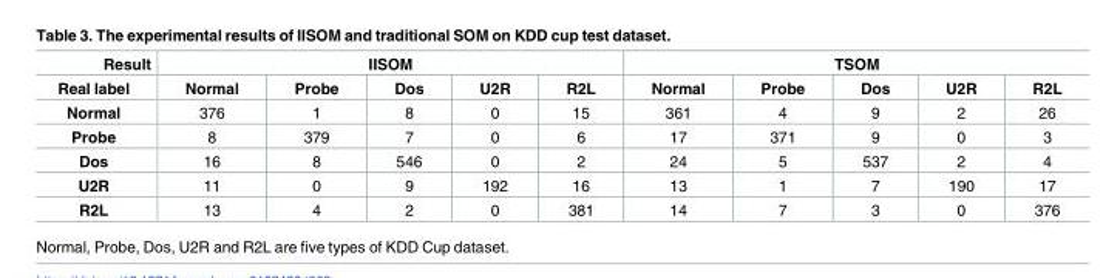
<table><thead><tr><td rowspan="2">Result Real label</td><td colspan="5">IISOM</td><td colspan="5">TSOM</td></tr><tr><td>Normal</td><td>Probe</td><td>Dos</td><td>U2R</td><td>R2L</td><td>Normal</td><td>Probe</td><td>Dos</td><td>U2R</td><td>R2L</td></tr></thead><tbody><tr><td>Normal</td><td>376</td><td>1</td><td>8</td><td>0</td><td>15</td><td>361</td><td>4</td><td>9</td><td>2</td><td>26</td></tr><tr><td>Probe</td><td>8</td><td>379</td><td>7</td><td>0</td><td>6</td><td>17</td><td>371</td><td>9</td><td>0</td><td>3</td></tr><tr><td>Dos</td><td>16</td><td>8</td><td>546</td><td>0</td><td>2</td><td>24</td><td>5</td><td>537</td><td>2</td><td>4</td></tr><tr><td>U2R</td><td>11</td><td>0</td><td>9</td><td>192</td><td>16</td><td>13</td><td>1</td><td>7</td><td>190</td><td>17</td></tr><tr><td>R2L</td><td>13</td><td>4</td><td>2</td><td>0</td><td>381</td><td>14</td><td>7</td><td>3</td><td>0</td><td>376</td></tr></tbody></table>